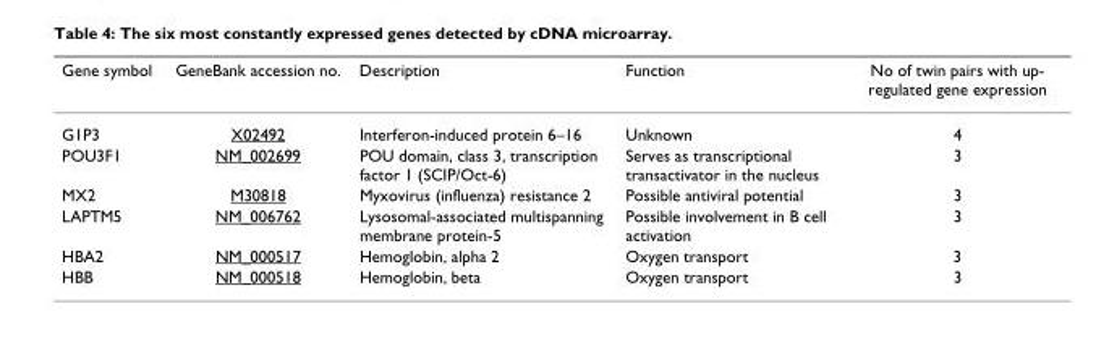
<table><thead><tr><td>Gene symbol</td><td>GeneBank accession no.</td><td>Description</td><td>Function</td><td>No of twin pairs with up- regulated gene expression</td></tr></thead><tbody><tr><td>G1P3</td><td>X02492</td><td>Interferon-induced protein 6–16</td><td>Unknown</td><td>4</td></tr><tr><td>POU3F1</td><td>NM_002699</td><td>POU domain, class 3, transcription factor 1 (SCIP/Oct-6)</td><td>Serves as transcriptional transactivator in the nucleus</td><td>3</td></tr><tr><td>MX2</td><td>M30818</td><td>Myxovirus (influenza) resistance 2</td><td>Possible antiviral potential</td><td>3</td></tr><tr><td>LAPTM5</td><td>NM_006762</td><td>Lysosomal-associated multispanning membrane protein-5</td><td>Possible involvement in B cell activation</td><td>3</td></tr><tr><td>HBA2</td><td>NM_000517</td><td>Hemoglobin, alpha 2</td><td>Oxygen transport</td><td>3</td></tr><tr><td>HBB</td><td>NM_000518</td><td>Hemoglobin, beta</td><td>Oxygen transport</td><td>3</td></tr></tbody></table>